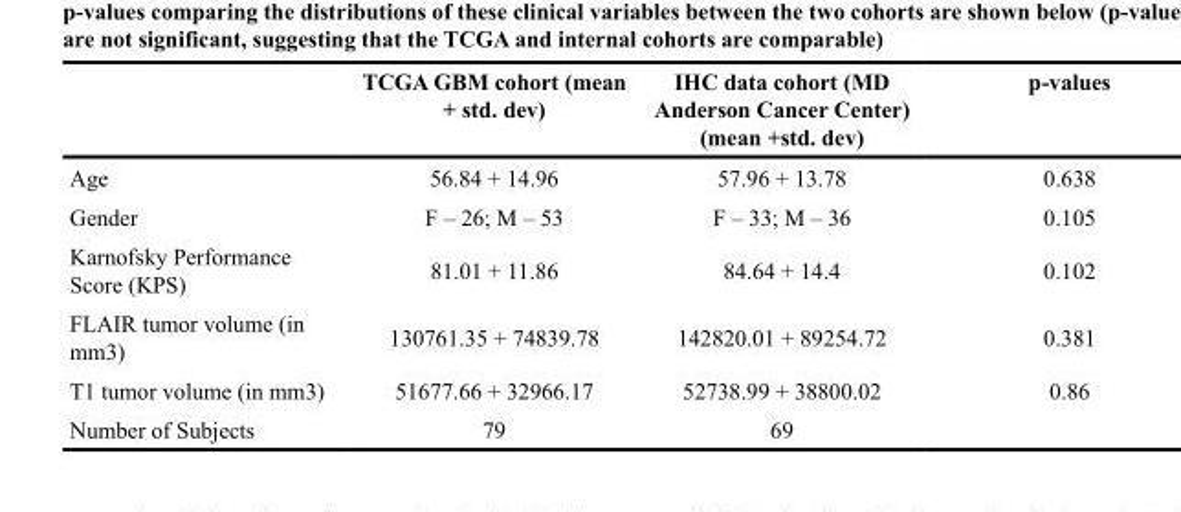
<table><thead><tr><td></td><td>TCGA GBM cohort (mean + std. dev)</td><td>IHC data cohort (MD Anderson Cancer Center) (mean +std. dev)</td><td>p-values</td></tr></thead><tbody><tr><td>Age</td><td>56.84 + 14.96</td><td>57.96 + 13.78</td><td>0.638</td></tr><tr><td>Gender</td><td>F – 26; M – 53</td><td>F – 33; M – 36</td><td>0.105</td></tr><tr><td>Karnofsky Performance Score (KPS)</td><td>81.01 + 11.86</td><td>84.64 + 14.4</td><td>0.102</td></tr><tr><td>FLAIR tumor volume (in mm3)</td><td>130761.35 + 74839.78</td><td>142820.01 + 89254.72</td><td>0.381</td></tr><tr><td>T1 tumor volume (in mm3)</td><td>51677.66 + 32966.17</td><td>52738.99 + 38800.02</td><td>0.86</td></tr><tr><td>Number of Subjects</td><td>79</td><td>69</td><td></td></tr></tbody></table>